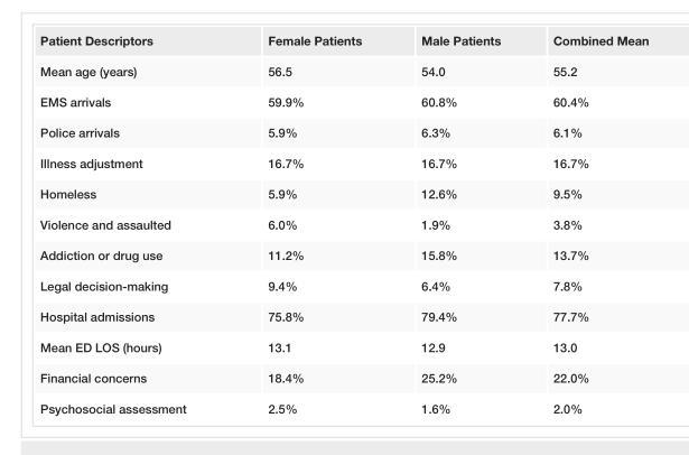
<table><tbody><tr><td>Patient Descriptors</td><td>Female Patients</td><td>Male Patients</td><td>Combined Mean</td></tr><tr><td>Mean age (years)</td><td>56.5</td><td>54.0</td><td>55.2</td></tr><tr><td>EMS arrivals</td><td>59.9%</td><td>60.8%</td><td>60.4%</td></tr><tr><td>Police arrivals</td><td>5.9%</td><td>6.3%</td><td>6.1%</td></tr><tr><td>Illness adjustment</td><td>16.7%</td><td>16.7%</td><td>16.7%</td></tr><tr><td>Homeless</td><td>5.9%</td><td>12.6%</td><td>9.5%</td></tr><tr><td>Violence and assaulted</td><td>6.0%</td><td>1.9%</td><td>3.8%</td></tr><tr><td>Addiction or drug use</td><td>11.2%</td><td>15.8%</td><td>13.7%</td></tr><tr><td>Legal decision-making</td><td>9.4%</td><td>6.4%</td><td>7.8%</td></tr><tr><td>Hospital admissions</td><td>75.8%</td><td>79.4%</td><td>77.7%</td></tr><tr><td>Mean ED LOS (hours)</td><td>13.1</td><td>12.9</td><td>13.0</td></tr><tr><td>Financial concerns</td><td>18.4%</td><td>25.2%</td><td>22.0%</td></tr><tr><td>Psychosocial assessment</td><td>2.5%</td><td>1.6%</td><td>2.0%</td></tr></tbody></table>